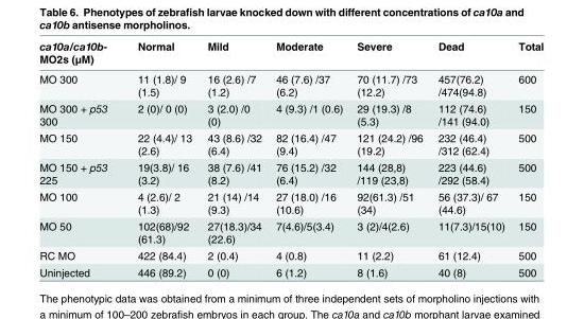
<table><thead><tr><td>ca10a/ca10b- MO2s (μM)</td><td>Normal</td><td>Mild</td><td>Moderate</td><td>Severe</td><td>Dead</td><td>Total</td></tr></thead><tbody><tr><td>MO 300</td><td>11 (1.8)/ 9 (1.5)</td><td>16 (2.6) /7 (1.2)</td><td>46 (7.6) /37 (6.2)</td><td>70 (11.7) /73 (12.2)</td><td>457(76.2) /474(94.8)</td><td>600</td></tr><tr><td>MO 300 + p53 300</td><td>2 (0)/ 0 (0)</td><td>3 (2.0) /0 (0)</td><td>4 (9.3) /1 (0.6)</td><td>29 (19.3) /8 (5.3)</td><td>112 (74.6) /141 (94.0)</td><td>150</td></tr><tr><td>MO 150</td><td>22 (4.4)/ 13 (2.6)</td><td>43 (8.6) /32 (6.4)</td><td>82 (16.4) /47 (9.4)</td><td>121 (24.2) /96 (19.2)</td><td>232 (46.4) /312 (62.4)</td><td>500</td></tr><tr><td>MO 150 + p53 225</td><td>19(3.8)/ 16 (3.2)</td><td>38 (7.6) /41 (8.2)</td><td>76 (15.2) /32 (6.4)</td><td>144 (28,8) /119 (23,8)</td><td>223 (44.6) /292 (58.4)</td><td>500</td></tr><tr><td>MO 100</td><td>4 (2.6)/ 2 (1.3)</td><td>21 (14) /14 (9.3)</td><td>27 (18.0) /16 (10.6)</td><td>92(61.3) /51 (34)</td><td>56 (37.3)/ 67 (44.6)</td><td>150</td></tr><tr><td>MO 50</td><td>102(68)/92 (61.3)</td><td>27(18.3)/34 (22.6)</td><td>7(4.6)/5(3.4)</td><td>3 (2)/4(2.6)</td><td>11(7.3)/15(10)</td><td>150</td></tr><tr><td>RC MO</td><td>422 (84.4)</td><td>2 (0.4)</td><td>4 (0.8)</td><td>11 (2.2)</td><td>61 (12.4)</td><td>500</td></tr><tr><td>Uninjected</td><td>446 (89.2)</td><td>0 (0)</td><td>6 (1.2)</td><td>8 (1.6)</td><td>40 (8)</td><td>500</td></tr></tbody></table>